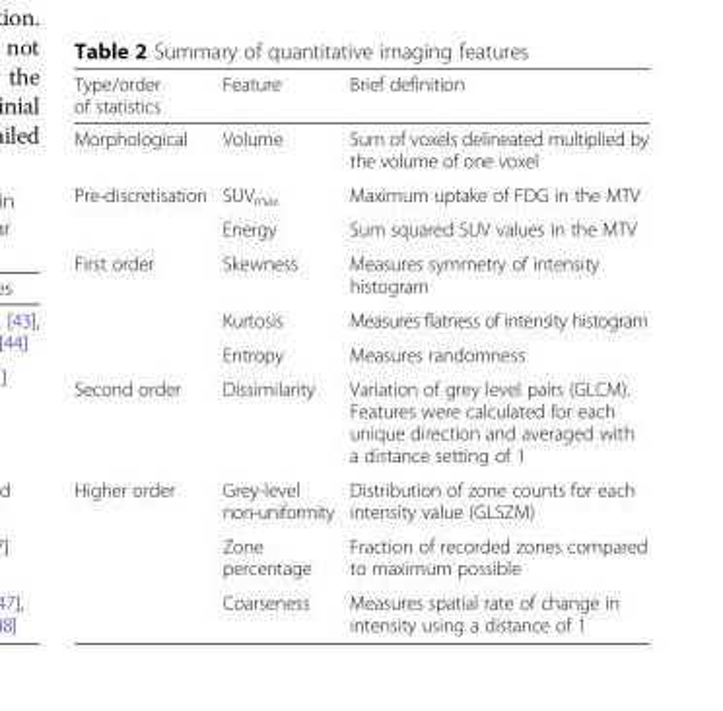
<table><thead><tr><td>Type/order of statistics</td><td>Feature</td><td>Brief definition</td></tr></thead><tbody><tr><td>Morphological</td><td>Volume</td><td>Sum of voxels delineated multiplied by the volume of one voxel</td></tr><tr><td rowspan="2">Pre-discretisation</td><td>SUV<sub>max</sub></td><td>Maximum uptake of FDG in the MTV</td></tr><tr><td>Energy</td><td>Sum squared SUV values in the MTV</td></tr><tr><td rowspan="3">First order</td><td>Skewness</td><td>Measures symmetry of intensity histogram</td></tr><tr><td>Kurtosis</td><td>Measures flatness of intensity histogram</td></tr><tr><td>Entropy</td><td>Measures randomness</td></tr><tr><td>Second order</td><td>Dissimilarity</td><td>Variation of grey level pairs (GLCM). Features were calculated for each unique direction and averaged with a distance setting of 1</td></tr><tr><td rowspan="3">Higher order</td><td>Grey-level non-uniformity</td><td>Distribution of zone counts for each intensity value (GLSZM)</td></tr><tr><td>Zone percentage</td><td>Fraction of recorded zones compared to maximum possible</td></tr><tr><td>Coarseness</td><td>Measures spatial rate of change in intensity using a distance of 1</td></tr></tbody></table>